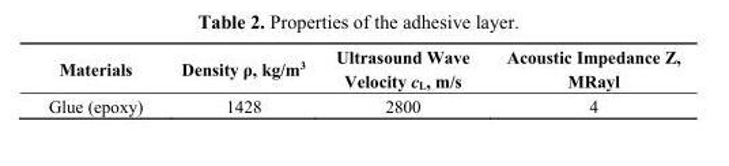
<table><thead><tr><td>Materials</td><td>Density ρ, kg/m<sup>3</sup></td><td>Ultrasound Wave Velocity c<sub>L</sub>, m/s</td><td>Acoustic Impedance Z, MRayl</td></tr></thead><tbody><tr><td>Glue (epoxy)</td><td>1428</td><td>2800</td><td>4</td></tr></tbody></table>